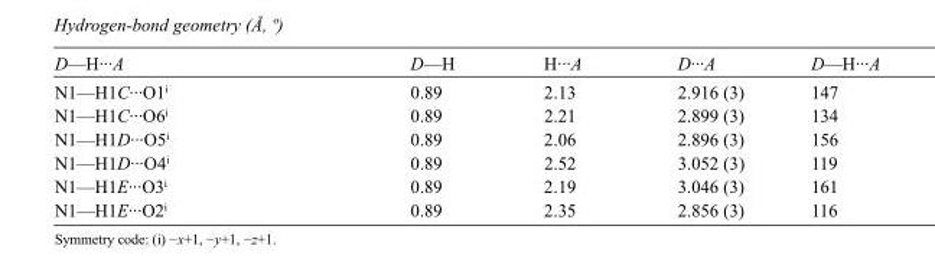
<table><tbody><tr><td>D—H···A</td><td>D—H</td><td>H···A</td><td>D···A</td><td>D—H···A</td></tr><tr><td>N1—H1C···O1<sup>i</sup></td><td>0.89</td><td>2.13</td><td>2.916 (3)</td><td>147</td></tr><tr><td>N1—H1C···O6<sup>i</sup></td><td>0.89</td><td>2.21</td><td>2.899 (3)</td><td>134</td></tr><tr><td>N1—H1D···O5<sup>i</sup></td><td>0.89</td><td>2.06</td><td>2.896 (3)</td><td>156</td></tr><tr><td>N1—H1D···O4<sup>i</sup></td><td>0.89</td><td>2.52</td><td>3.052 (3)</td><td>119</td></tr><tr><td>N1—H1E···O3<sup>i</sup></td><td>0.89</td><td>2.19</td><td>3.046 (3)</td><td>161</td></tr><tr><td>N1—H1E···O2<sup>i</sup></td><td>0.89</td><td>2.35</td><td>2.856 (3)</td><td>116</td></tr></tbody></table>